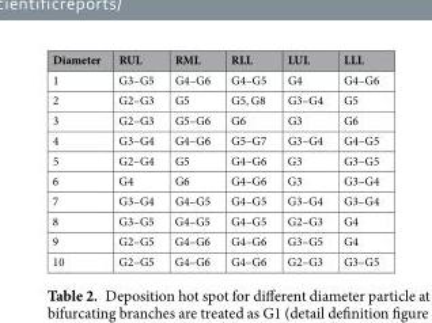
<table><thead><tr><td>Diameter</td><td>RUL</td><td>RML</td><td>RLL</td><td>LUL</td><td>LLL</td></tr></thead><tbody><tr><td>1</td><td>G3–G5</td><td>G4–G6</td><td>G4–G5</td><td>G4</td><td>G4–G6</td></tr><tr><td>2</td><td>G2–G3</td><td>G5</td><td>G5, G8</td><td>G3–G4</td><td>G5</td></tr><tr><td>3</td><td>G2–G3</td><td>G5–G6</td><td>G6</td><td>G3</td><td>G6</td></tr><tr><td>4</td><td>G3–G4</td><td>G4–G6</td><td>G5–G7</td><td>G3–G4</td><td>G4–G5</td></tr><tr><td>5</td><td>G2–G4</td><td>G5</td><td>G4–G6</td><td>G3</td><td>G3–G5</td></tr><tr><td>6</td><td>G4</td><td>G6</td><td>G4–G6</td><td>G3</td><td>G3–G4</td></tr><tr><td>7</td><td>G3–G4</td><td>G4–G5</td><td>G4–G5</td><td>G3–G4</td><td>G3–G4</td></tr><tr><td>8</td><td>G3–G5</td><td>G4–G5</td><td>G4–G5</td><td>G2–G3</td><td>G4</td></tr><tr><td>9</td><td>G2–G5</td><td>G4–G6</td><td>G4–G6</td><td>G3–G5</td><td>G4</td></tr><tr><td>10</td><td>G2–G5</td><td>G4–G6</td><td>G4–G6</td><td>G2–G3</td><td>G3–G5</td></tr></tbody></table>